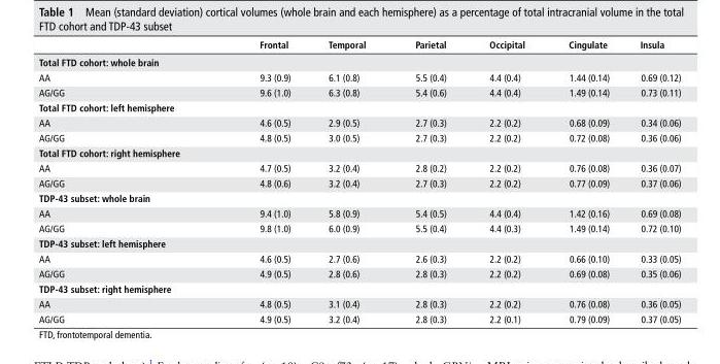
<table><thead><tr><td></td><td>Frontal</td><td>temporal</td><td>Parietal</td><td>occipital</td><td>cingulate</td><td>insula</td></tr></thead><tbody><tr><td colspan="7">total Ftd cohort: whole brain</td></tr><tr><td>AA</td><td>9.3 (0.9)</td><td>6.1 (0.8)</td><td>5.5 (0.4)</td><td>4.4 (0.4)</td><td>1.44 (0.14)</td><td>0.69 (0.12)</td></tr><tr><td>AG/GG</td><td>9.6 (1.0)</td><td>6.3 (0.8)</td><td>5.4 (0.6)</td><td>4.4 (0.4)</td><td>1.49 (0.14)</td><td>0.73 (0.11)</td></tr><tr><td colspan="7">total Ftd cohort: left hemisphere</td></tr><tr><td>AA</td><td>4.6 (0.5)</td><td>2.9 (0.5)</td><td>2.7 (0.3)</td><td>2.2 (0.2)</td><td>0.68 (0.09)</td><td>0.34 (0.06)</td></tr><tr><td>AG/GG</td><td>4.8 (0.5)</td><td>3.0 (0.5)</td><td>2.7 (0.3)</td><td>2.2 (0.2)</td><td>0.72 (0.08)</td><td>0.36 (0.06)</td></tr><tr><td colspan="7">total Ftd cohort: right hemisphere</td></tr><tr><td>AA</td><td>4.7 (0.5)</td><td>3.2 (0.4)</td><td>2.8 (0.2)</td><td>2.2 (0.2)</td><td>0.76 (0.08)</td><td>0.36 (0.07)</td></tr><tr><td>AG/GG</td><td>4.8 (0.6)</td><td>3.2 (0.4)</td><td>2.7 (0.3)</td><td>2.2 (0.2)</td><td>0.77 (0.09)</td><td>0.37 (0.06)</td></tr><tr><td colspan="7">tdP-43 subset: whole brain</td></tr><tr><td>AA</td><td>9.4 (1.0)</td><td>5.8 (0.9)</td><td>5.4 (0.5)</td><td>4.4 (0.4)</td><td>1.42 (0.16)</td><td>0.69 (0.08)</td></tr><tr><td>AG/GG</td><td>9.8 (1.0)</td><td>6.0 (0.9)</td><td>5.5 (0.4)</td><td>4.4 (0.3)</td><td>1.49 (0.14)</td><td>0.72 (0.10)</td></tr><tr><td colspan="7">tdP-43 subset: left hemisphere</td></tr><tr><td>AA</td><td>4.6 (0.5)</td><td>2.7 (0.6)</td><td>2.6 (0.3)</td><td>2.2 (0.2)</td><td>0.66 (0.10)</td><td>0.33 (0.05)</td></tr><tr><td>AG/GG</td><td>4.9 (0.5)</td><td>2.8 (0.6)</td><td>2.8 (0.3)</td><td>2.2 (0.2)</td><td>0.69 (0.08)</td><td>0.35 (0.06)</td></tr><tr><td colspan="7">tdP-43 subset: right hemisphere</td></tr><tr><td>AA</td><td>4.8 (0.5)</td><td>3.1 (0.4)</td><td>2.8 (0.3)</td><td>2.2 (0.2)</td><td>0.76 (0.08)</td><td>0.36 (0.05)</td></tr><tr><td>AG/GG</td><td>4.9 (0.5)</td><td>3.2 (0.4)</td><td>2.8 (0.3)</td><td>2.2 (0.1)</td><td>0.79 (0.09)</td><td>0.37 (0.05)</td></tr></tbody></table>